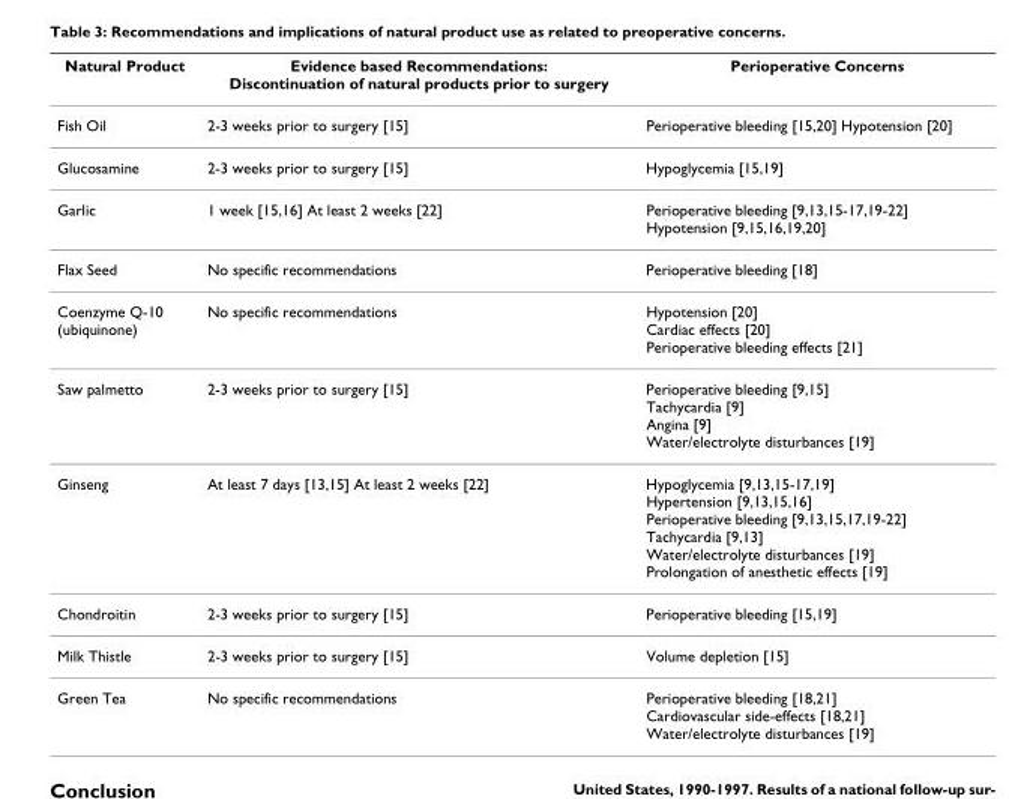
<table><thead><tr><td>Natural Product</td><td>Evidence based Recommendations: Discontinuation of natural products prior to surgery</td><td>Perioperative Concerns</td></tr></thead><tbody><tr><td>Fish Oil</td><td>2-3 weeks prior to surgery [15]</td><td>Perioperative bleeding [15,20] Hypotension [20]</td></tr><tr><td>Glucosamine</td><td>2-3 weeks prior to surgery [15]</td><td>Hypoglycemia [15,19]</td></tr><tr><td>Garlic</td><td>1 week [15,16] At least 2 weeks [22]</td><td>Perioperative bleeding [9,13,15-17,19-22] Hypotension [9,15,16,19,20]</td></tr><tr><td>Flax Seed</td><td>No specific recommendations</td><td>Perioperative bleeding [18]</td></tr><tr><td>Coenzyme Q-10 (ubiquinone)</td><td>No specific recommendations</td><td>Hypotension [20] Cardiac effects [20] Perioperative bleeding effects [21]</td></tr><tr><td>Saw palmetto</td><td>2-3 weeks prior to surgery [15]</td><td>Perioperative bleeding [9,15] Tachycardia [9] Angina [9] Water/electrolyte disturbances [19]</td></tr><tr><td>Ginseng</td><td>At least 7 days [13,15] At least 2 weeks [22]</td><td>Hypoglycemia [9,13,15-17,19] Hypertension [9,13,15,16] Perioperative bleeding [9,13,15,17,19-22] Tachycardia [9,13] Water/electrolyte disturbances [19] Prolongation of anesthetic effects [19]</td></tr><tr><td>Chondroitin</td><td>2-3 weeks prior to surgery [15]</td><td>Perioperative bleeding [15,19]</td></tr><tr><td>Milk Thistle</td><td>2-3 weeks prior to surgery [15]</td><td>Volume depletion [15]</td></tr><tr><td>Green Tea</td><td>No specific recommendations</td><td>Perioperative bleeding [18,21] Cardiovascular side-effects [18,21] Water/electrolyte disturbances [19]</td></tr></tbody></table>